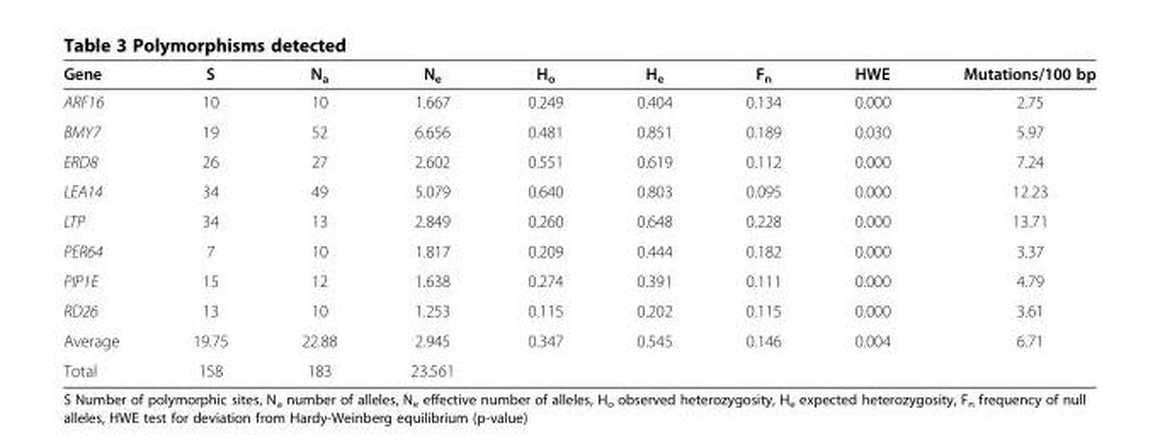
<table><thead><tr><td>Gene</td><td>S</td><td>N<sub>a</sub></td><td>N<sub>e</sub></td><td>H<sub>o</sub></td><td>H<sub>e</sub></td><td>F<sub>n</sub></td><td>HWE</td><td>Mutations/100 bp</td></tr></thead><tbody><tr><td>ARF16</td><td>10</td><td>10</td><td>1.667</td><td>0.249</td><td>0.404</td><td>0.134</td><td>0.000</td><td>2.75</td></tr><tr><td>BMY7</td><td>19</td><td>52</td><td>6.656</td><td>0.481</td><td>0.851</td><td>0.189</td><td>0.030</td><td>5.97</td></tr><tr><td>ERD8</td><td>26</td><td>27</td><td>2.602</td><td>0.551</td><td>0.619</td><td>0.112</td><td>0.000</td><td>7.24</td></tr><tr><td>LEA14</td><td>34</td><td>49</td><td>5.079</td><td>0.640</td><td>0.803</td><td>0.095</td><td>0.000</td><td>12.23</td></tr><tr><td>LTP</td><td>34</td><td>13</td><td>2.849</td><td>0.260</td><td>0.648</td><td>0.228</td><td>0.000</td><td>13.71</td></tr><tr><td>PER64</td><td>7</td><td>10</td><td>1.817</td><td>0.209</td><td>0.444</td><td>0.182</td><td>0.000</td><td>3.37</td></tr><tr><td>PIP1E</td><td>15</td><td>12</td><td>1.638</td><td>0.274</td><td>0.391</td><td>0.111</td><td>0.000</td><td>4.79</td></tr><tr><td>RD26</td><td>13</td><td>10</td><td>1.253</td><td>0.115</td><td>0.202</td><td>0.115</td><td>0.000</td><td>3.61</td></tr><tr><td>Average</td><td>19.75</td><td>22.88</td><td>2.945</td><td>0.347</td><td>0.545</td><td>0.146</td><td>0.004</td><td>6.71</td></tr><tr><td>Total</td><td>158</td><td>183</td><td>23.561</td><td></td><td></td><td></td><td></td><td></td></tr></tbody></table>